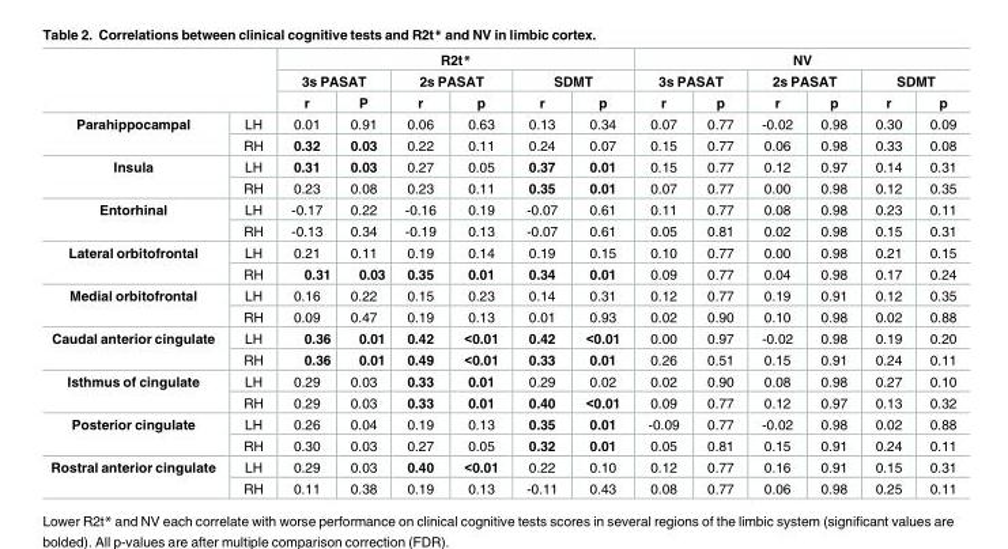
<table><thead><tr><td rowspan="3"></td><td rowspan="3"></td><td colspan="6">R2t*</td><td colspan="6">NV</td></tr><tr><td colspan="2">3s PASAT</td><td colspan="2">2s PASAT</td><td colspan="2">SDMT</td><td colspan="2">3s PASAT</td><td colspan="2">2s PASAT</td><td colspan="2">SDMT</td></tr><tr><td>r</td><td>P</td><td>r</td><td>p</td><td>r</td><td>p</td><td>r</td><td>p</td><td>r</td><td>p</td><td>r</td><td>p</td></tr></thead><tbody><tr><td rowspan="2">Parahippocampal</td><td>LH</td><td>0.01</td><td>0.91</td><td>0.06</td><td>0.63</td><td>0.13</td><td>0.34</td><td>0.07</td><td>0.77</td><td>-0.02</td><td>0.98</td><td>0.30</td><td>0.09</td></tr><tr><td>RH</td><td>0.32</td><td>0.03</td><td>0.22</td><td>0.11</td><td>0.24</td><td>0.07</td><td>0.15</td><td>0.77</td><td>0.06</td><td>0.98</td><td>0.33</td><td>0.08</td></tr><tr><td rowspan="2">Insula</td><td>LH</td><td>0.31</td><td>0.03</td><td>0.27</td><td>0.05</td><td>0.37</td><td>0.01</td><td>0.15</td><td>0.77</td><td>0.12</td><td>0.97</td><td>0.14</td><td>0.31</td></tr><tr><td>RH</td><td>0.23</td><td>0.08</td><td>0.23</td><td>0.11</td><td>0.35</td><td>0.01</td><td>0.07</td><td>0.77</td><td>0.00</td><td>0.98</td><td>0.12</td><td>0.35</td></tr><tr><td rowspan="2">Entorhinal</td><td>LH</td><td>-0.17</td><td>0.22</td><td>-0.16</td><td>0.19</td><td>-0.07</td><td>0.61</td><td>0.11</td><td>0.77</td><td>0.08</td><td>0.98</td><td>0.23</td><td>0.11</td></tr><tr><td>RH</td><td>-0.13</td><td>0.34</td><td>-0.19</td><td>0.13</td><td>-0.07</td><td>0.61</td><td>0.05</td><td>0.81</td><td>0.02</td><td>0.98</td><td>0.15</td><td>0.31</td></tr><tr><td rowspan="2">Lateral orbitofrontal</td><td>LH</td><td>0.21</td><td>0.11</td><td>0.19</td><td>0.14</td><td>0.19</td><td>0.15</td><td>0.10</td><td>0.77</td><td>0.00</td><td>0.98</td><td>0.21</td><td>0.15</td></tr><tr><td>RH</td><td>0.31</td><td>0.03</td><td>0.35</td><td>0.01</td><td>0.34</td><td>0.01</td><td>0.09</td><td>0.77</td><td>0.04</td><td>0.98</td><td>0.17</td><td>0.24</td></tr><tr><td rowspan="2">Medial orbitofrontal</td><td>LH</td><td>0.16</td><td>0.22</td><td>0.15</td><td>0.23</td><td>0.14</td><td>0.31</td><td>0.12</td><td>0.77</td><td>0.19</td><td>0.91</td><td>0.12</td><td>0.35</td></tr><tr><td>RH</td><td>0.09</td><td>0.47</td><td>0.19</td><td>0.13</td><td>0.01</td><td>0.93</td><td>0.02</td><td>0.90</td><td>0.10</td><td>0.98</td><td>0.02</td><td>0.88</td></tr><tr><td rowspan="2">Caudal anterior cingulate</td><td>LH</td><td>0.36</td><td>0.01</td><td>0.42</td><td>&lt;0.01</td><td>0.42</td><td>&lt;0.01</td><td>0.00</td><td>0.97</td><td>-0.02</td><td>0.98</td><td>0.19</td><td>0.20</td></tr><tr><td>RH</td><td>0.36</td><td>0.01</td><td>0.49</td><td>&lt;0.01</td><td>0.33</td><td>0.01</td><td>0.26</td><td>0.51</td><td>0.15</td><td>0.91</td><td>0.24</td><td>0.11</td></tr><tr><td rowspan="2">Isthmus of cingulate</td><td>LH</td><td>0.29</td><td>0.03</td><td>0.33</td><td>0.01</td><td>0.29</td><td>0.02</td><td>0.02</td><td>0.90</td><td>0.08</td><td>0.98</td><td>0.27</td><td>0.10</td></tr><tr><td>RH</td><td>0.29</td><td>0.03</td><td>0.33</td><td>0.01</td><td>0.40</td><td>&lt;0.01</td><td>0.09</td><td>0.77</td><td>0.12</td><td>0.97</td><td>0.13</td><td>0.32</td></tr><tr><td rowspan="2">Posterior cingulate</td><td>LH</td><td>0.26</td><td>0.04</td><td>0.19</td><td>0.13</td><td>0.35</td><td>0.01</td><td>-0.09</td><td>0.77</td><td>-0.02</td><td>0.98</td><td>0.02</td><td>0.88</td></tr><tr><td>RH</td><td>0.30</td><td>0.03</td><td>0.27</td><td>0.05</td><td>0.32</td><td>0.01</td><td>0.05</td><td>0.81</td><td>0.15</td><td>0.91</td><td>0.24</td><td>0.11</td></tr><tr><td rowspan="2">Rostral anterior cingulate</td><td>LH</td><td>0.29</td><td>0.03</td><td>0.40</td><td>&lt;0.01</td><td>0.22</td><td>0.10</td><td>0.12</td><td>0.77</td><td>0.16</td><td>0.91</td><td>0.15</td><td>0.31</td></tr><tr><td>RH</td><td>0.11</td><td>0.38</td><td>0.19</td><td>0.13</td><td>-0.11</td><td>0.43</td><td>0.08</td><td>0.77</td><td>0.06</td><td>0.98</td><td>0.25</td><td>0.11</td></tr></tbody></table>